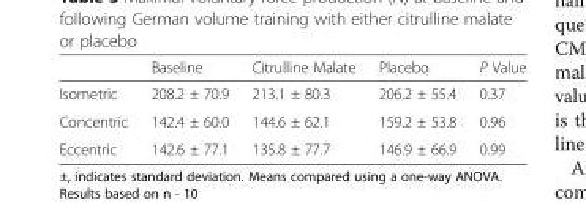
<table><thead><tr><td></td><td>Baseline</td><td>Citrulline Malate</td><td>Placebo</td><td>P Value</td></tr></thead><tbody><tr><td>Isometric</td><td>208.2 ± 70.9</td><td>213.1 ± 80.3</td><td>206.2 ± 55.4</td><td>0.37</td></tr><tr><td>Concentric</td><td>142.4 ± 60.0</td><td>144.6 ± 62.1</td><td>159.2 ± 53.8</td><td>0.96</td></tr><tr><td>Eccentric</td><td>142.6 ± 77.1</td><td>135.8 ± 77.7</td><td>146.9 ± 66.9</td><td>0.99</td></tr></tbody></table>